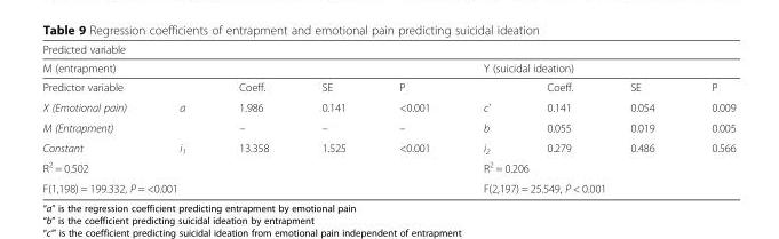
<table><thead><tr><td colspan="9">Predicted variable</td></tr><tr><td colspan="5">M (entrapment)</td><td colspan="4">Y (suicidal ideation)</td></tr><tr><td>Predictor variable</td><td></td><td>Coeff.</td><td>SE</td><td>P</td><td></td><td>Coeff.</td><td>SE</td><td>P</td></tr></thead><tbody><tr><td>X (Emotional pain)</td><td>a</td><td>1.986</td><td>0.141</td><td>&lt;0.001</td><td>c’</td><td>0.141</td><td>0.054</td><td>0.009</td></tr><tr><td>M (Entrapment)</td><td></td><td>–</td><td>–</td><td>–</td><td>b</td><td>0.055</td><td>0.019</td><td>0.005</td></tr><tr><td>Constant</td><td>i<sub>1</sub></td><td>13.358</td><td>1.525</td><td>&lt;0.001</td><td>i<sub>2</sub></td><td>0.279</td><td>0.486</td><td>0.566</td></tr><tr><td colspan="5">R<sup>2</sup> = 0.502</td><td colspan="4">R<sup>2</sup> = 0.206</td></tr><tr><td colspan="5">F(1,198) = 199.332, P = &lt;0.001</td><td colspan="4">F(2,197) = 25.549, P &lt; 0.001</td></tr></tbody></table>